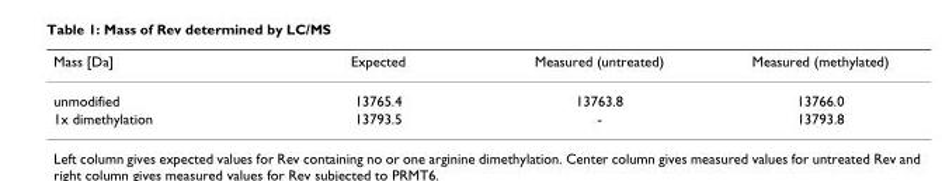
<table><thead><tr><td>Mass [Da]</td><td>Expected</td><td>Measured (untreated)</td><td>Measured (methylated)</td></tr></thead><tbody><tr><td>unmodified</td><td>13765.4</td><td>13763.8</td><td>13766.0</td></tr><tr><td>1x dimethylation</td><td>13793.5</td><td>-</td><td>13793.8</td></tr></tbody></table>